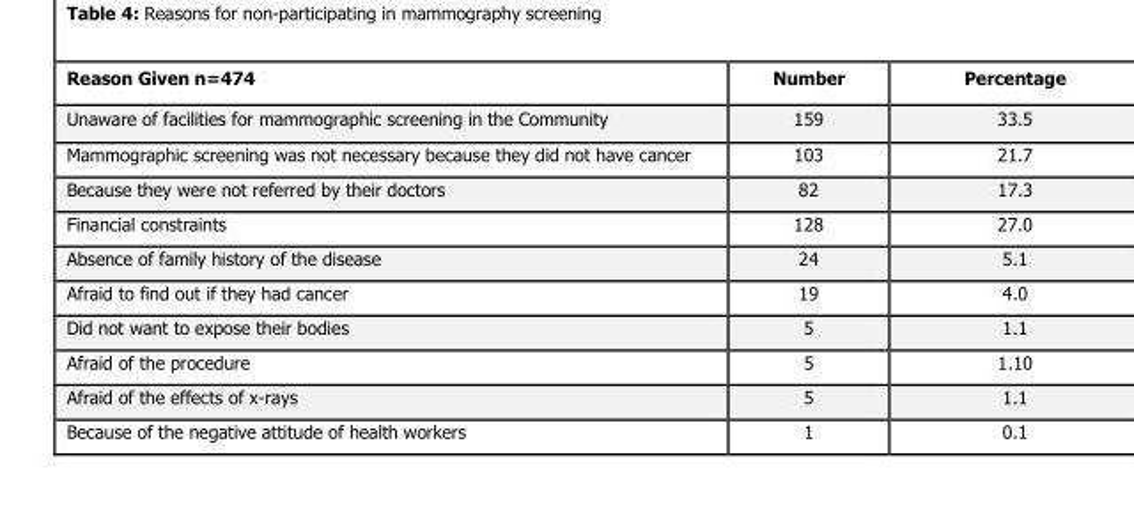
<table><thead><tr><td>Reason Given n=474</td><td>Number</td><td>Percentage</td></tr></thead><tbody><tr><td>Unaware of facilities for mammographic screening in the Community</td><td>159</td><td>33.5</td></tr><tr><td>Mammographic screening was not necessary because they did not have cancer</td><td>103</td><td>21.7</td></tr><tr><td>Because they were not referred by their doctors</td><td>82</td><td>17.3</td></tr><tr><td>Financial constraints</td><td>128</td><td>27.0</td></tr><tr><td>Absence of family history of the disease</td><td>24</td><td>5.1</td></tr><tr><td>Afraid to find out if they had cancer</td><td>19</td><td>4.0</td></tr><tr><td>Did not want to expose their bodies</td><td>5</td><td>1.1</td></tr><tr><td>Afraid of the procedure</td><td>5</td><td>1.10</td></tr><tr><td>Afraid of the effects of x-rays</td><td>5</td><td>1.1</td></tr><tr><td>Because of the negative attitude of health workers</td><td>1</td><td>0.1</td></tr></tbody></table>